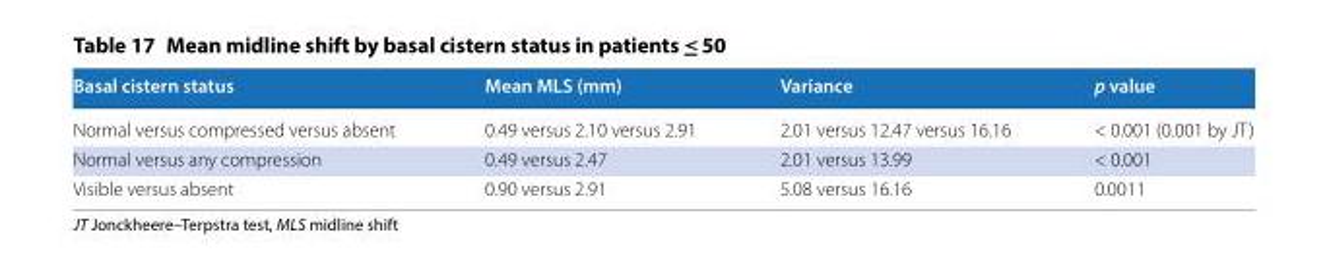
<table><thead><tr><td>Basal cistern status</td><td>Mean MLS (mm)</td><td>Variance</td><td>p value</td></tr></thead><tbody><tr><td>Normal versus compressed versus absent</td><td>0.49 versus 2.10 versus 2.91</td><td>2.01 versus 12.47 versus 16.16</td><td>&lt; 0.001 (0.001 by JT)</td></tr><tr><td>Normal versus any compression</td><td>0.49 versus 2.47</td><td>2.01 versus 13.99</td><td>&lt; 0.001</td></tr><tr><td>Visible versus absent</td><td>0.90 versus 2.91</td><td>5.08 versus 16.16</td><td>0.0011</td></tr></tbody></table>